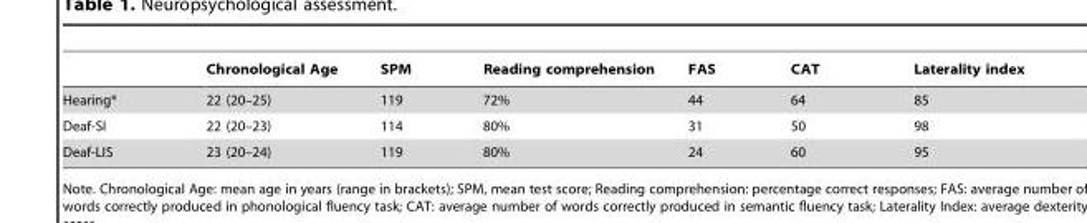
<table><thead><tr><td></td><td>Chronological Age</td><td>SPM</td><td>Reading comprehension</td><td>FAS</td><td>CAT</td><td>Laterality index</td></tr></thead><tbody><tr><td>Hearing*</td><td>22 (20–25)</td><td>119</td><td>72%</td><td>44</td><td>64</td><td>85</td></tr><tr><td>Deaf-SI</td><td>22 (20–23)</td><td>114</td><td>80%</td><td>31</td><td>50</td><td>98</td></tr><tr><td>Deaf-LIS</td><td>23 (20–24)</td><td>119</td><td>80%</td><td>24</td><td>60</td><td>95</td></tr></tbody></table>